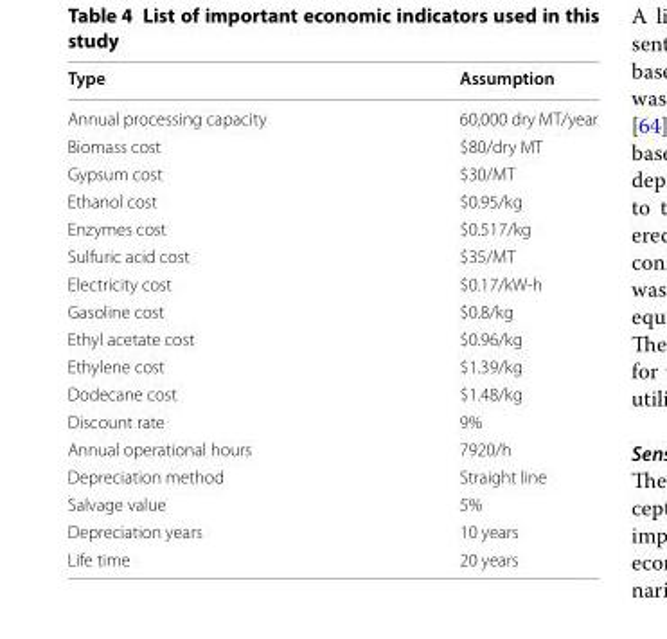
<table><thead><tr><td>Type</td><td>Assumption</td></tr></thead><tbody><tr><td>Annual processing capacity</td><td>60,000 dry MT/year</td></tr><tr><td>Biomass cost</td><td>$80/dry MT</td></tr><tr><td>Gypsum cost</td><td>$30/MT</td></tr><tr><td>Ethanol cost</td><td>$0.95/kg</td></tr><tr><td>Enzymes cost</td><td>$0.517/kg</td></tr><tr><td>Sulfuric acid cost</td><td>$35/MT</td></tr><tr><td>Electricity cost</td><td>$0.17/kW-h</td></tr><tr><td>Gasoline cost</td><td>$0.8/kg</td></tr><tr><td>Ethyl acetate cost</td><td>$0.96/kg</td></tr><tr><td>Ethylene cost</td><td>$1.39/kg</td></tr><tr><td>Dodecane cost</td><td>$1.48/kg</td></tr><tr><td>Discount rate</td><td>9%</td></tr><tr><td>Annual operational hours</td><td>7920/h</td></tr><tr><td>Depreciation method</td><td>Straight line</td></tr><tr><td>Salvage value</td><td>5%</td></tr><tr><td>Depreciation years</td><td>10 years</td></tr><tr><td>Life time</td><td>20 years</td></tr></tbody></table>